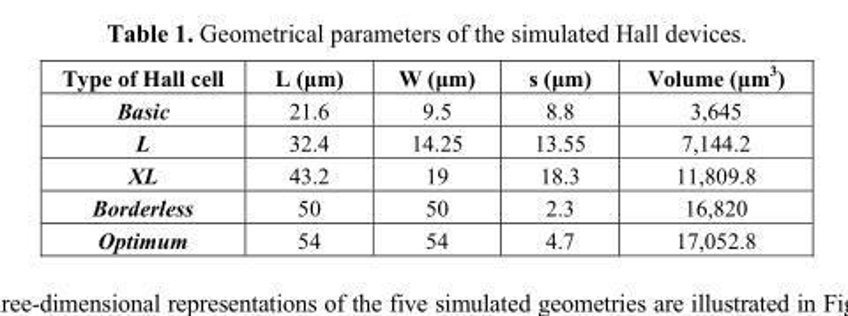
<table><thead><tr><td>Type of Hall cell</td><td>L (μm)</td><td>W (μm)</td><td>s (μm)</td><td>Volume (μm<sup>3</sup>)</td></tr></thead><tbody><tr><td>Basic</td><td>21.6</td><td>9.5</td><td>8.8</td><td>3,645</td></tr><tr><td>L</td><td>32.4</td><td>14.25</td><td>13.55</td><td>7,144.2</td></tr><tr><td>XL</td><td>43.2</td><td>19</td><td>18.3</td><td>11,809.8</td></tr><tr><td>Borderless</td><td>50</td><td>50</td><td>2.3</td><td>16,820</td></tr><tr><td>Optimum</td><td>54</td><td>54</td><td>4.7</td><td>17,052.8</td></tr></tbody></table>